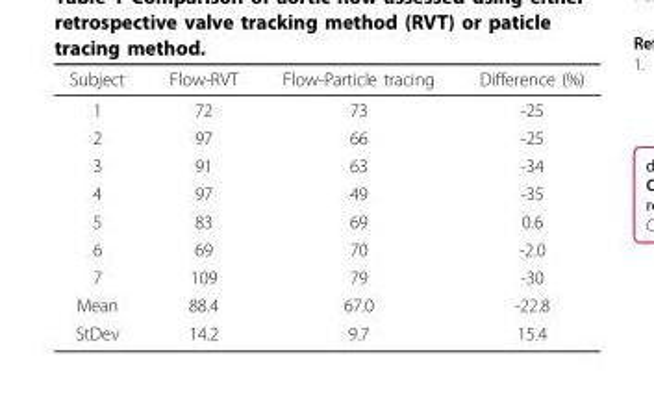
<table><thead><tr><td>Subject</td><td>Flow-RVT</td><td>Flow-Particle tracing</td><td>Difference (%)</td></tr></thead><tbody><tr><td>1</td><td>72</td><td>73</td><td>-25</td></tr><tr><td>2</td><td>97</td><td>66</td><td>-25</td></tr><tr><td>3</td><td>91</td><td>63</td><td>-34</td></tr><tr><td>4</td><td>97</td><td>49</td><td>-35</td></tr><tr><td>5</td><td>83</td><td>69</td><td>0.6</td></tr><tr><td>6</td><td>69</td><td>70</td><td>-2.0</td></tr><tr><td>7</td><td>109</td><td>79</td><td>-30</td></tr><tr><td>Mean</td><td>88.4</td><td>67.0</td><td>-22.8</td></tr><tr><td>StDev</td><td>14.2</td><td>9.7</td><td>15.4</td></tr></tbody></table>